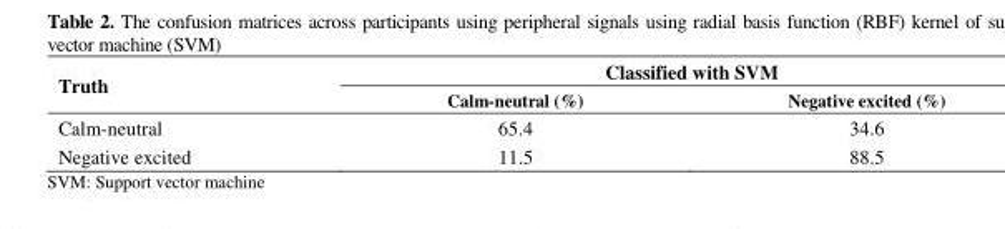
<table><thead><tr><td rowspan="2">Truth</td><td colspan="2">Classified with SVM</td></tr><tr><td>Calm-neutral (%)</td><td>Negative excited (%)</td></tr></thead><tbody><tr><td>Calm-neutral</td><td>65.4</td><td>34.6</td></tr><tr><td>Negative excited</td><td>11.5</td><td>88.5</td></tr></tbody></table>